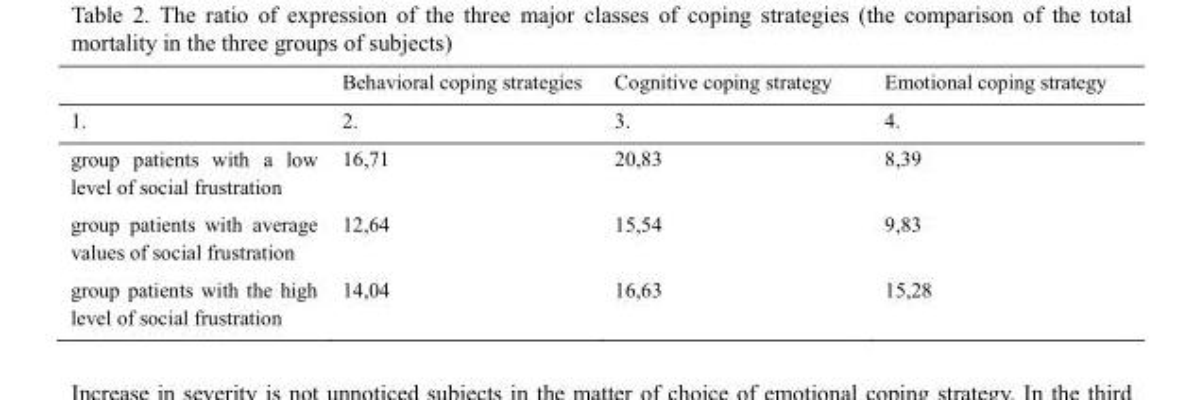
<table><thead><tr><td rowspan="2">1.</td><td rowspan="2">Behavioral coping strategies 2.</td><td rowspan="2">Cognitive coping strategy 3.</td><td rowspan="2">Emotional coping strategy 4.</td></tr><tr></tr></thead><tbody><tr><td>group patients with a low level of social frustration</td><td>16,71</td><td>20,83</td><td>8,39</td></tr><tr><td>group patients with average values of social frustration</td><td>12,64</td><td>15,54</td><td>9,83</td></tr><tr><td>group patients with the high level of social frustration</td><td>14,04</td><td>16,63</td><td>15,28</td></tr></tbody></table>